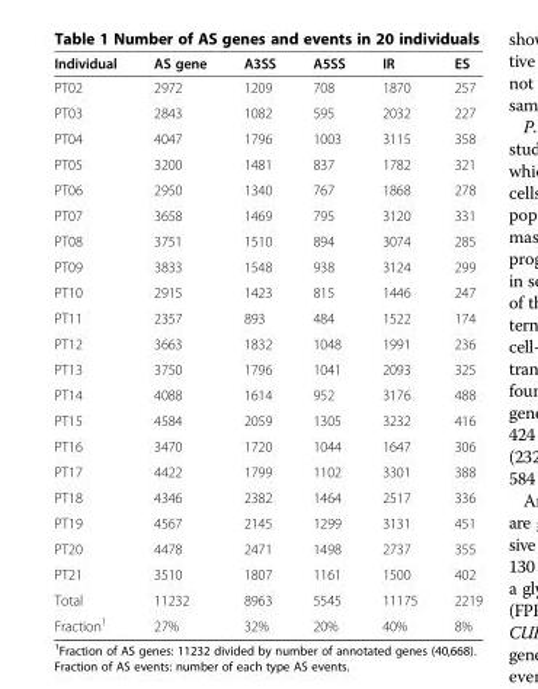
<table><thead><tr><td>Individual</td><td>AS gene</td><td>A3SS</td><td>A5SS</td><td>IR</td><td>ES</td></tr></thead><tbody><tr><td>PT02</td><td>2972</td><td>1209</td><td>708</td><td>1870</td><td>257</td></tr><tr><td>PT03</td><td>2843</td><td>1082</td><td>595</td><td>2032</td><td>227</td></tr><tr><td>PT04</td><td>4047</td><td>1796</td><td>1003</td><td>3115</td><td>358</td></tr><tr><td>PT05</td><td>3200</td><td>1481</td><td>837</td><td>1782</td><td>321</td></tr><tr><td>PT06</td><td>2950</td><td>1340</td><td>767</td><td>1868</td><td>278</td></tr><tr><td>PT07</td><td>3658</td><td>1469</td><td>795</td><td>3120</td><td>331</td></tr><tr><td>PT08</td><td>3751</td><td>1510</td><td>894</td><td>3074</td><td>285</td></tr><tr><td>PT09</td><td>3833</td><td>1548</td><td>938</td><td>3124</td><td>299</td></tr><tr><td>PT10</td><td>2915</td><td>1423</td><td>815</td><td>1446</td><td>247</td></tr><tr><td>PT11</td><td>2357</td><td>893</td><td>484</td><td>1522</td><td>174</td></tr><tr><td>PT12</td><td>3663</td><td>1832</td><td>1048</td><td>1991</td><td>236</td></tr><tr><td>PT13</td><td>3750</td><td>1796</td><td>1041</td><td>2093</td><td>325</td></tr><tr><td>PT14</td><td>4088</td><td>1614</td><td>952</td><td>3176</td><td>488</td></tr><tr><td>PT15</td><td>4584</td><td>2059</td><td>1305</td><td>3232</td><td>416</td></tr><tr><td>PT16</td><td>3470</td><td>1720</td><td>1044</td><td>1647</td><td>306</td></tr><tr><td>PT17</td><td>4422</td><td>1799</td><td>1102</td><td>3301</td><td>388</td></tr><tr><td>PT18</td><td>4346</td><td>2382</td><td>1464</td><td>2517</td><td>336</td></tr><tr><td>PT19</td><td>4567</td><td>2145</td><td>1299</td><td>3131</td><td>451</td></tr><tr><td>PT20</td><td>4478</td><td>2471</td><td>1498</td><td>2737</td><td>355</td></tr><tr><td>PT21</td><td>3510</td><td>1807</td><td>1161</td><td>1500</td><td>402</td></tr><tr><td>Total</td><td>11232</td><td>8963</td><td>5545</td><td>11175</td><td>2219</td></tr><tr><td>Fraction<sup>1</sup></td><td>27%</td><td>32%</td><td>20%</td><td>40%</td><td>8%</td></tr></tbody></table>